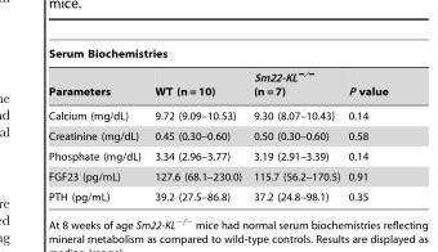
<table><thead><tr><td colspan="4">Serum Biochemistries</td></tr><tr><td>Parameters</td><td>WT (n = 10)</td><td>Sm22-KL<sup>−/−</sup> (n = 7)</td><td>P value</td></tr></thead><tbody><tr><td>Calcium (mg/dL)</td><td>9.72 (9.09–10.53)</td><td>9.30 (8.07–10.43)</td><td>0.14</td></tr><tr><td>Creatinine (mg/dL)</td><td>0.45 (0.30–0.60)</td><td>0.50 (0.30–0.60)</td><td>0.58</td></tr><tr><td>Phosphate (mg/dL)</td><td>3.34 (2.96–3.77)</td><td>3.19 (2.91–3.39)</td><td>0.14</td></tr><tr><td>FGF23 (pg/mL)</td><td>127.6 (68.1–230.0)</td><td>115.7 (56.2–170.5)</td><td>0.91</td></tr><tr><td>PTH (pg/mL)</td><td>39.2 (27.5–86.8)</td><td>37.2 (24.8–98.1)</td><td>0.35</td></tr></tbody></table>